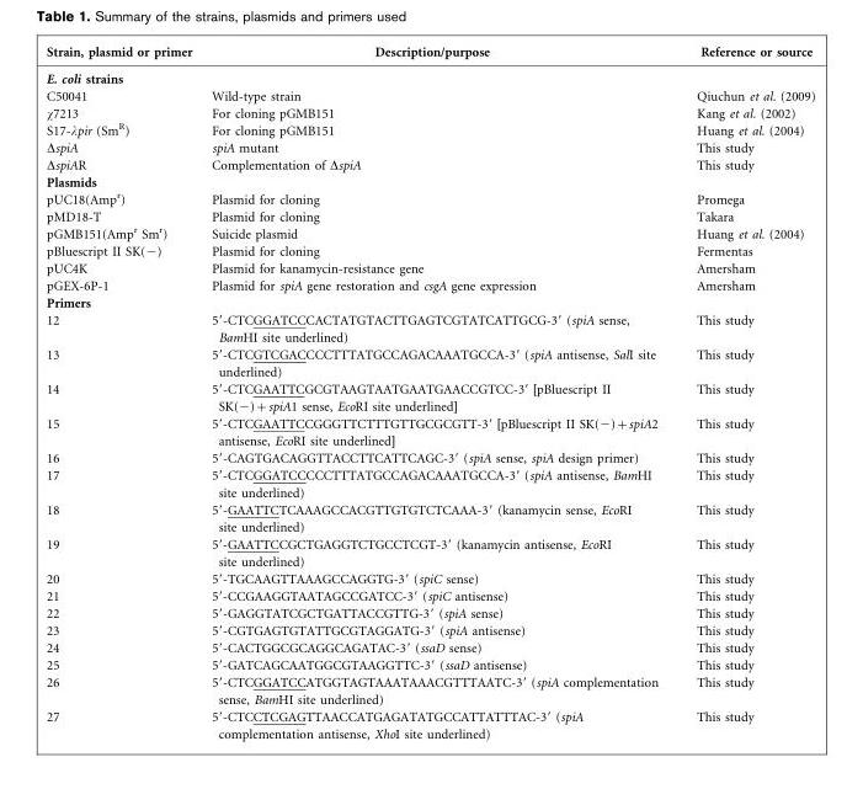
<table><thead><tr><td>Strain, plasmid or primer</td><td>Description/purpose</td><td>Reference or source</td></tr></thead><tbody><tr><td colspan="3">E. coli strains</td></tr><tr><td>C50041</td><td>Wild-type strain</td><td>Qiuchun et al. (2009)</td></tr><tr><td>χ7213</td><td>For cloning pGMB151</td><td>Kang et al. (2002)</td></tr><tr><td>S17-λpir (Sm<sup>R</sup>)</td><td>For cloning pGMB151</td><td>Huang et al. (2004)</td></tr><tr><td>ΔspiA</td><td>spiA mutant</td><td>This study</td></tr><tr><td>ΔspiAR</td><td>Complementation of ΔspiA</td><td>This study</td></tr><tr><td colspan="3">Plasmids</td></tr><tr><td>pUC18(Amp<sup>r</sup>)</td><td>Plasmid for cloning</td><td>Promega</td></tr><tr><td>pMD18-T</td><td>Plasmid for cloning</td><td>Takara</td></tr><tr><td>pGMB151(Amp<sup>r</sup> Sm<sup>r</sup>)</td><td>Suicide plasmid</td><td>Huang et al. (2004)</td></tr><tr><td>pBluescript II SK(−)</td><td>Plasmid for cloning</td><td>Fermentas</td></tr><tr><td>pUC4K</td><td>Plasmid for kanamycin-resistance gene</td><td>Amersham</td></tr><tr><td>pGEX-6P-1</td><td>Plasmid for spiA gene restoration and csgA gene expression</td><td>Amersham</td></tr><tr><td colspan="3">Primers</td></tr><tr><td>12</td><td>5′-CTCGGATCCCACTATGTACTTGAGTCGTATCATTGCG-3′ (spiA sense, BamHI site underlined)</td><td>This study</td></tr><tr><td>13</td><td>5′-CTCGTCGACCCCTTTATGCCAGACAAATGCCA-3′ (spiA antisense, SalI site underlined)</td><td>This study</td></tr><tr><td>14</td><td>5′-CTCGAATTCGCGTAAGTAATGAATGAACCGTCC-3′ [pBluescript II SK(−)+spiA1 sense, EcoRI site underlined]</td><td>This study</td></tr><tr><td>15</td><td>5′-CTCGAATTCCGGGTTCTTTGTTGCGCGTT-3′ [pBluescript II SK(−)+spiA2 antisense, EcoRI site underlined]</td><td>This study</td></tr><tr><td>16</td><td>5′-CAGTGACAGGTTACCTTCATTCAGC-3′ (spiA sense, spiA design primer)</td><td>This study</td></tr><tr><td>17</td><td>5′-CTCGGATCCCCCTTTATGCCAGACAAATGCCA-3′ (spiA antisense, BamHI site underlined)</td><td>This study</td></tr><tr><td>18</td><td>5′-GAATTCTCAAAGCCACGTTGTGTCTCAAA-3′ (kanamycin sense, EcoRI site underlined)</td><td>This study</td></tr><tr><td>19</td><td>5′-GAATTCCGCTGAGGTCTGCCTCGT-3′ (kanamycin antisense, EcoRI site underlined)</td><td>This study</td></tr><tr><td>20</td><td>5′-TGCAAGTTAAAGCCAGGTG-3′ (spiC sense)</td><td>This study</td></tr><tr><td>21</td><td>5′-CCGAAGGTAATAGCCGATCC-3′ (spiC antisense)</td><td>This study</td></tr><tr><td>22</td><td>5′-GAGGTATCGCTGATTACCGTTG-3′ (spiA sense)</td><td>This study</td></tr><tr><td>23</td><td>5′-CGTGAGTGTATTGCGTAGGATG-3′ (spiA antisense)</td><td>This study</td></tr><tr><td>24</td><td>5′-CACTGGCGCAGGCAGATAC-3′ (ssaD sense)</td><td>This study</td></tr><tr><td>25</td><td>5′-GATCAGCAATGGCGTAAGGTTC-3′ (ssaD antisense)</td><td>This study</td></tr><tr><td>26</td><td>5′-CTCGGATCCATGGTAGTAAATAAACGTTTAATC-3′ (spiA complementation sense, BamHI site underlined)</td><td>This study</td></tr><tr><td>27</td><td>5′-CTCCTCGAGTTAACCATGAGATATGCCATTATTTAC-3′ (spiA complementation antisense, XhoI site underlined)</td><td>This study</td></tr></tbody></table>